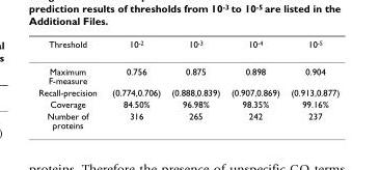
<table><thead><tr><td>Threshold</td><td>10<sup>-2</sup></td><td>10<sup>-3</sup></td><td>10<sup>-4</sup></td><td>10<sup>-5</sup></td></tr></thead><tbody><tr><td>Maximum F-measure</td><td>0.756</td><td>0.875</td><td>0.898</td><td>0.904</td></tr><tr><td>Recall-precision</td><td>(0.774,0.706)</td><td>(0.888,0.839)</td><td>(0.907,0.869)</td><td>(0.913,0.877)</td></tr><tr><td>Coverage</td><td>84.50%</td><td>96.98%</td><td>98.35%</td><td>99.16%</td></tr><tr><td>Number of proteins</td><td>316</td><td>265</td><td>242</td><td>237</td></tr></tbody></table>